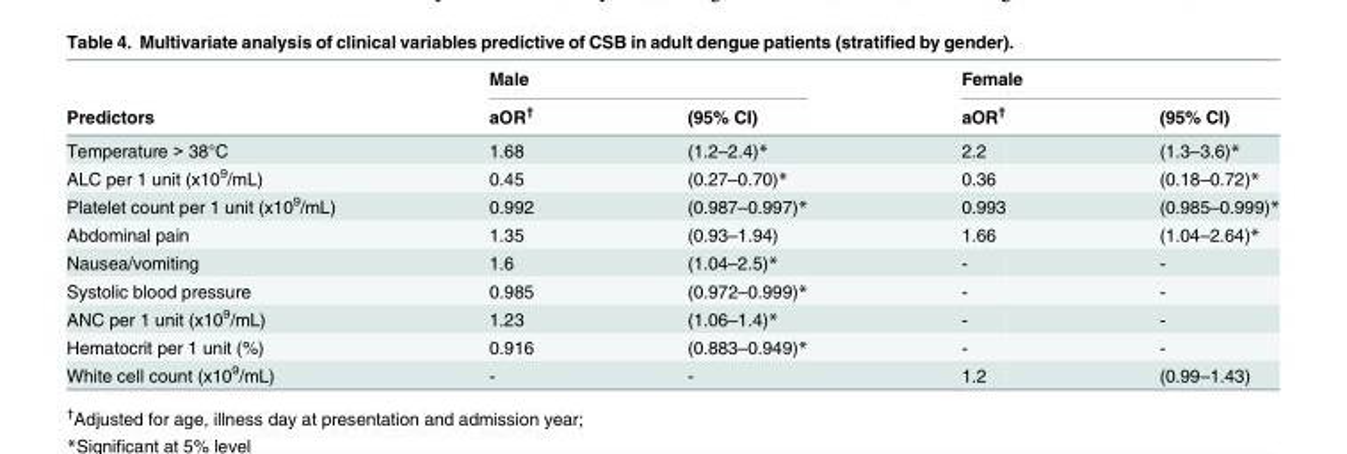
<table><thead><tr><td rowspan="2">Predictors</td><td colspan="2">Male</td><td colspan="2">Female</td></tr><tr><td>aOR<sup>†</sup></td><td>(95% CI)</td><td>aOR<sup>†</sup></td><td>(95% CI)</td></tr></thead><tbody><tr><td>Temperature &gt; 38°C</td><td>1.68</td><td>(1.2–2.4)*</td><td>2.2</td><td>(1.3–3.6)*</td></tr><tr><td>ALC per 1 unit (x10<sup>9</sup>/mL)</td><td>0.45</td><td>(0.27–0.70)*</td><td>0.36</td><td>(0.18–0.72)*</td></tr><tr><td>Platelet count per 1 unit (x10<sup>9</sup>/mL)</td><td>0.992</td><td>(0.987–0.997)*</td><td>0.993</td><td>(0.985–0.999)*</td></tr><tr><td>Abdominal pain</td><td>1.35</td><td>(0.93–1.94)</td><td>1.66</td><td>(1.04–2.64)*</td></tr><tr><td>Nausea/vomiting</td><td>1.6</td><td>(1.04–2.5)*</td><td>-</td><td>-</td></tr><tr><td>Systolic blood pressure</td><td>0.985</td><td>(0.972–0.999)*</td><td>-</td><td>-</td></tr><tr><td>ANC per 1 unit (x10<sup>9</sup>/mL)</td><td>1.23</td><td>(1.06–1.4)*</td><td>-</td><td>-</td></tr><tr><td>Hematocrit per 1 unit (%)</td><td>0.916</td><td>(0.883–0.949)*</td><td>-</td><td>-</td></tr><tr><td>White cell count (x10<sup>9</sup>/mL)</td><td>-</td><td>-</td><td>1.2</td><td>(0.99–1.43)</td></tr></tbody></table>